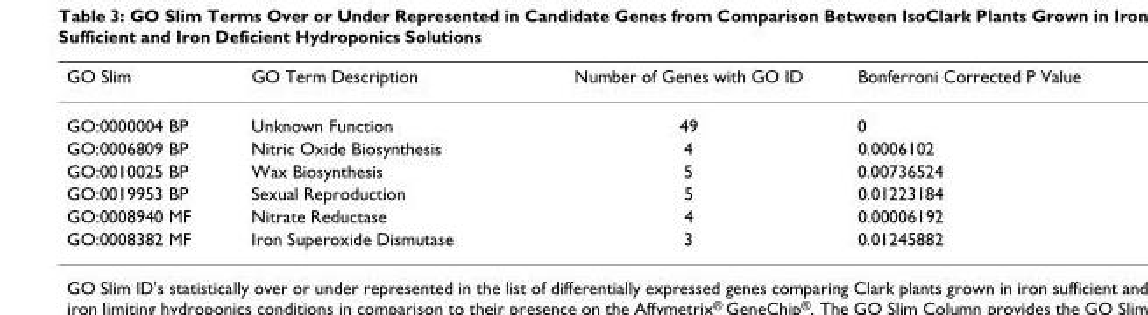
<table><thead><tr><td>GO Slim</td><td>GO Term Description</td><td>Number of Genes with GO ID</td><td>Bonferroni Corrected P Value</td></tr></thead><tbody><tr><td>GO:0000004 BP</td><td>Unknown Function</td><td>49</td><td>0</td></tr><tr><td>GO:0006809 BP</td><td>Nitric Oxide Biosynthesis</td><td>4</td><td>0.0006102</td></tr><tr><td>GO:0010025 BP</td><td>Wax Biosynthesis</td><td>5</td><td>0.00736524</td></tr><tr><td>GO:0019953 BP</td><td>Sexual Reproduction</td><td>5</td><td>0.01223184</td></tr><tr><td>GO:0008940 MF</td><td>Nitrate Reductase</td><td>4</td><td>0.00006192</td></tr><tr><td>GO:0008382 MF</td><td>Iron Superoxide Dismutase</td><td>3</td><td>0.01245882</td></tr></tbody></table>